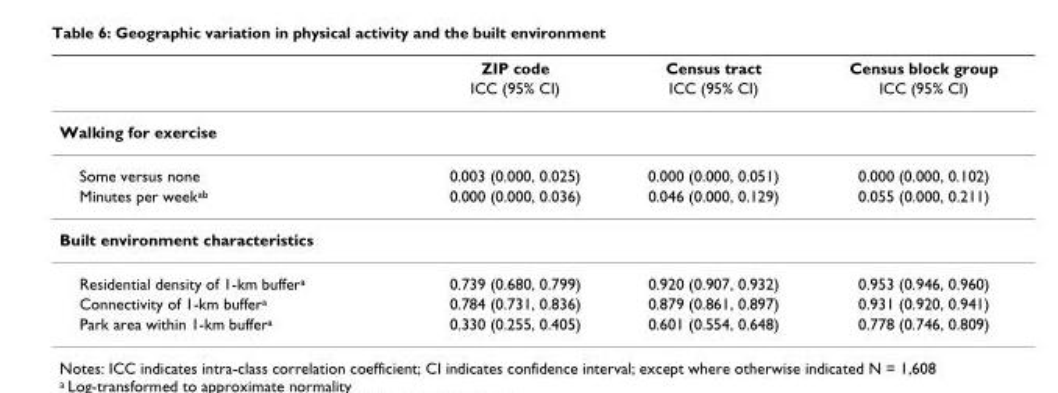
<table><thead><tr><td rowspan="2"></td><td rowspan="2">ZIP code ICC (95% CI)</td><td rowspan="2">Census tract ICC (95% CI)</td><td rowspan="2">Census block group ICC (95% CI)</td></tr><tr></tr></thead><tbody><tr><td colspan="4">Walking for exercise</td></tr><tr><td>Some versus none</td><td>0.003 (0.000, 0.025)</td><td>0.000 (0.000, 0.051)</td><td>0.000 (0.000, 0.102)</td></tr><tr><td>Minutes per week<sup>ab</sup></td><td>0.000 (0.000, 0.036)</td><td>0.046 (0.000, 0.129)</td><td>0.055 (0.000, 0.211)</td></tr><tr><td colspan="4">Built environment characteristics</td></tr><tr><td>Residential density of 1-km buffer<sup>a</sup></td><td>0.739 (0.680, 0.799)</td><td>0.920 (0.907, 0.932)</td><td>0.953 (0.946, 0.960)</td></tr><tr><td>Connectivity of 1-km buffer<sup>a</sup></td><td>0.784 (0.731, 0.836)</td><td>0.879 (0.861, 0.897)</td><td>0.931 (0.920, 0.941)</td></tr><tr><td>Park area within 1-km buffer<sup>a</sup></td><td>0.330 (0.255, 0.405)</td><td>0.601 (0.554, 0.648)</td><td>0.778 (0.746, 0.809)</td></tr></tbody></table>